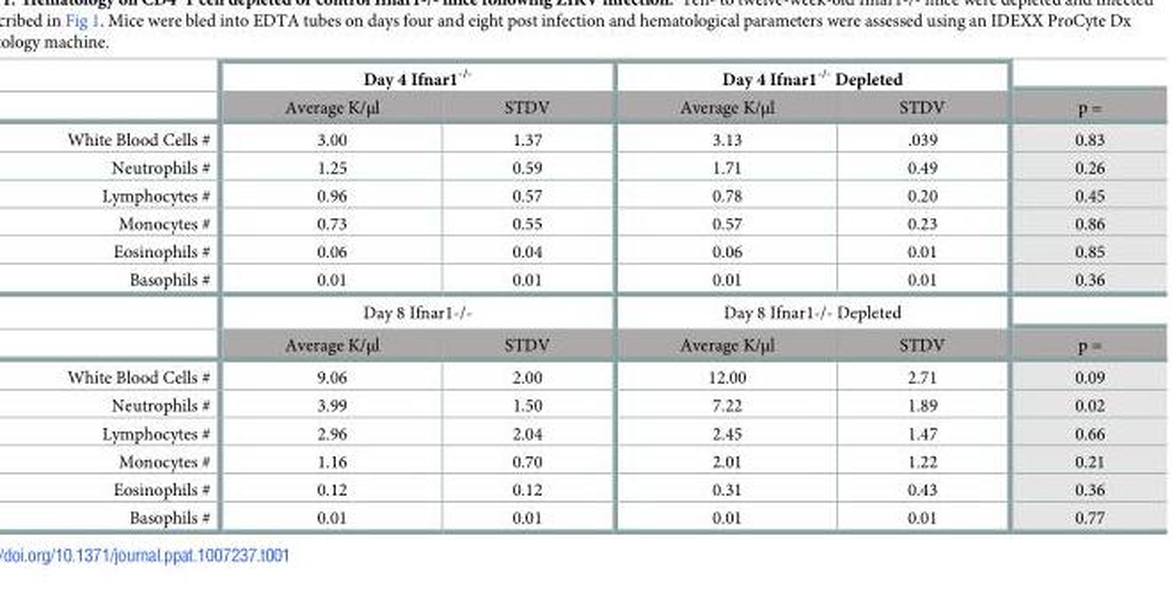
<table><thead><tr><td rowspan="2"></td><td colspan="2">Day 4 Ifnar1<sup>-/-</sup></td><td colspan="2">Day 4 Ifnar1<sup>-/-</sup> Depleted</td><td rowspan="2">p =</td></tr><tr><td>Average K/μl</td><td>STDV</td><td>Average K/μl</td><td>STDV</td></tr></thead><tbody><tr><td>White Blood Cells #</td><td>3.00</td><td>1.37</td><td>3.13</td><td>.039</td><td>0.83</td></tr><tr><td>Neutrophils #</td><td>1.25</td><td>0.59</td><td>1.71</td><td>0.49</td><td>0.26</td></tr><tr><td>Lymphocytes #</td><td>0.96</td><td>0.57</td><td>0.78</td><td>0.20</td><td>0.45</td></tr><tr><td>Monocytes #</td><td>0.73</td><td>0.55</td><td>0.57</td><td>0.23</td><td>0.86</td></tr><tr><td>Eosinophils #</td><td>0.06</td><td>0.04</td><td>0.06</td><td>0.01</td><td>0.85</td></tr><tr><td rowspan="3">Basophils #</td><td>0.01</td><td>0.01</td><td>0.01</td><td>0.01</td><td>0.36</td></tr><tr><td colspan="2">Day 8 Ifnar1-/-</td><td colspan="2">Day 8 Ifnar1-/- Depleted</td><td></td></tr><tr><td>Average K/μl</td><td>STDV</td><td>Average K/μl</td><td>STDV</td><td>p =</td></tr><tr><td>White Blood Cells #</td><td>9.06</td><td>2.00</td><td>12.00</td><td>2.71</td><td>0.09</td></tr><tr><td>Neutrophils #</td><td>3.99</td><td>1.50</td><td>7.22</td><td>1.89</td><td>0.02</td></tr><tr><td>Lymphocytes #</td><td>2.96</td><td>2.04</td><td>2.45</td><td>1.47</td><td>0.66</td></tr><tr><td>Monocytes #</td><td>1.16</td><td>0.70</td><td>2.01</td><td>1.22</td><td>0.21</td></tr><tr><td>Eosinophils #</td><td>0.12</td><td>0.12</td><td>0.31</td><td>0.43</td><td>0.36</td></tr><tr><td>Basophils #</td><td>0.01</td><td>0.01</td><td>0.01</td><td>0.01</td><td>0.77</td></tr></tbody></table>